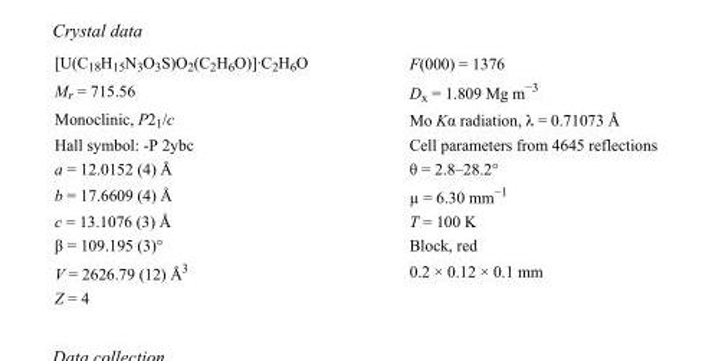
<table><tbody><tr><td>[U(C<sub>18</sub>H<sub>15</sub>N<sub>3</sub>O<sub>3</sub>S)O<sub>2</sub>(C<sub>2</sub>H<sub>6</sub>O)]·C<sub>2</sub>H<sub>6</sub>O</td><td>F(000) = 1376</td></tr><tr><td>M<sub>r</sub> = 715.56</td><td>D<sub>x</sub> = 1.809 Mg m<sup>−3</sup></td></tr><tr><td>Monoclinic, P2<sub>1</sub>/c</td><td>Mo Kα radiation, λ = 0.71073 Å</td></tr><tr><td>Hall symbol: -P 2ybc</td><td>Cell parameters from 4645 reflections</td></tr><tr><td>a = 12.0152 (4) Å</td><td>θ = 2.8–28.2°</td></tr><tr><td>b = 17.6609 (4) Å</td><td>µ = 6.30 mm<sup>−1</sup></td></tr><tr><td>c = 13.1076 (3) Å</td><td>T = 100 K</td></tr><tr><td>β = 109.195 (3)°</td><td>Block, red</td></tr><tr><td>V = 2626.79 (12) Å<sup>3</sup></td><td>0.2 × 0.12 × 0.1 mm</td></tr><tr><td>Z = 4</td><td></td></tr></tbody></table>